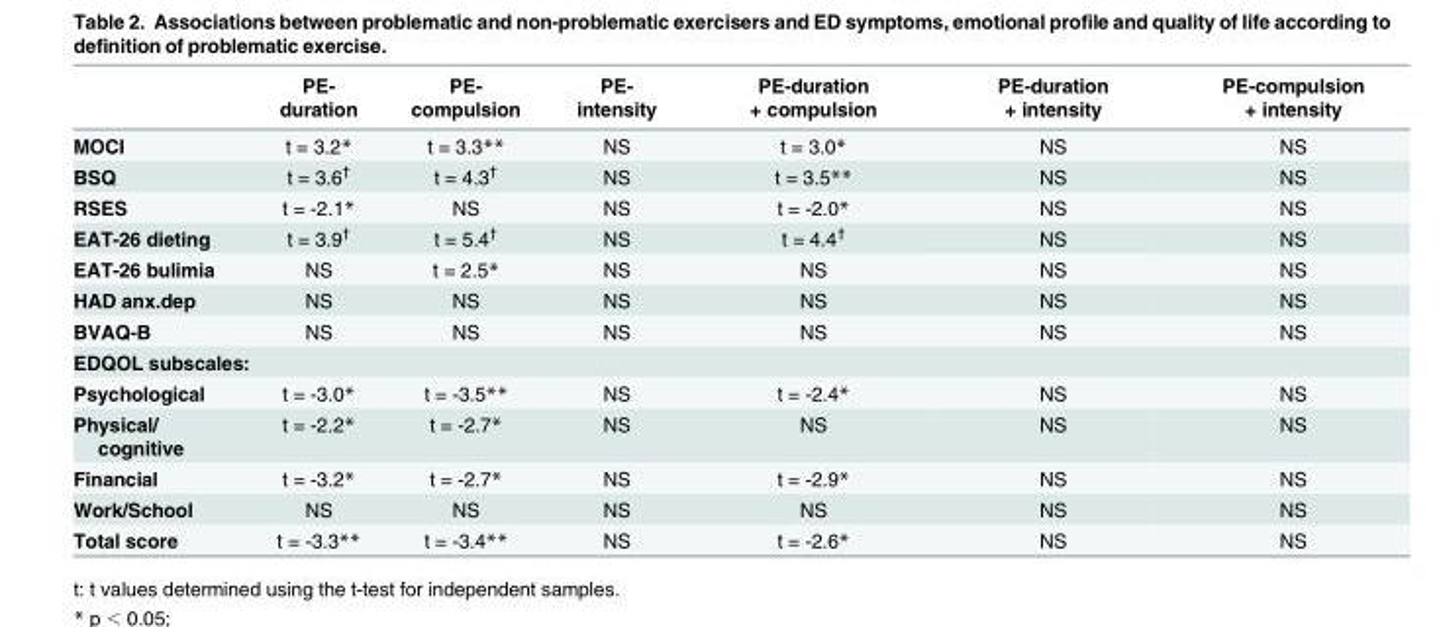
<table><thead><tr><td></td><td>PE- duration</td><td>PE- compulsion</td><td>PE- intensity</td><td>PE-duration + compulsion</td><td>PE-duration + intensity</td><td>PE-compulsion + intensity</td></tr></thead><tbody><tr><td>MOCI</td><td>t = 3.2*</td><td>t = 3.3**</td><td>NS</td><td>t = 3.0*</td><td>NS</td><td>NS</td></tr><tr><td>BSQ</td><td>t = 3.6<sup>†</sup></td><td>t = 4.3<sup>†</sup></td><td>NS</td><td>t = 3.5**</td><td>NS</td><td>NS</td></tr><tr><td>RSES</td><td>t = -2.1*</td><td>NS</td><td>NS</td><td>t = -2.0*</td><td>NS</td><td>NS</td></tr><tr><td>EAT-26 dieting</td><td>t = 3.9<sup>†</sup></td><td>t = 5.4<sup>†</sup></td><td>NS</td><td>t = 4.4<sup>†</sup></td><td>NS</td><td>NS</td></tr><tr><td>EAT-26 bulimia</td><td>NS</td><td>t = 2.5*</td><td>NS</td><td>NS</td><td>NS</td><td>NS</td></tr><tr><td>HAD anx.dep</td><td>NS</td><td>NS</td><td>NS</td><td>NS</td><td>NS</td><td>NS</td></tr><tr><td>BVAQ-B</td><td>NS</td><td>NS</td><td>NS</td><td>NS</td><td>NS</td><td>NS</td></tr><tr><td colspan="7">EDQOL subscales:</td></tr><tr><td>Psychological</td><td>t = -3.0*</td><td>t = -3.5**</td><td>NS</td><td>t = -2.4*</td><td>NS</td><td>NS</td></tr><tr><td>Physical/ cognitive</td><td>t = -2.2*</td><td>t = -2.7*</td><td>NS</td><td>NS</td><td>NS</td><td>NS</td></tr><tr><td>Financial</td><td>t = -3.2*</td><td>t = -2.7*</td><td>NS</td><td>t = -2.9*</td><td>NS</td><td>NS</td></tr><tr><td>Work/School</td><td>NS</td><td>NS</td><td>NS</td><td>NS</td><td>NS</td><td>NS</td></tr><tr><td>Total score</td><td>t = -3.3**</td><td>t = -3.4**</td><td>NS</td><td>t = -2.6*</td><td>NS</td><td>NS</td></tr></tbody></table>